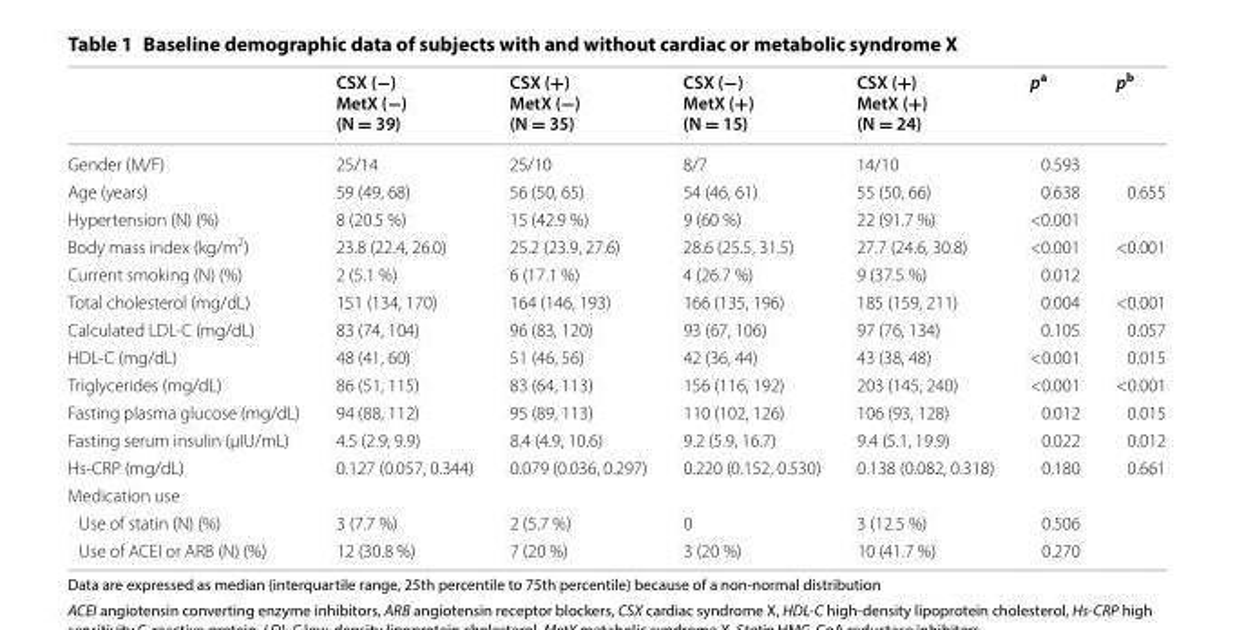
<table><thead><tr><td></td><td>CSX (−) MetX (−) (N = 39)</td><td>CSX (+) MetX (−) (N = 35)</td><td>CSX (−) MetX (+) (N = 15)</td><td>CSX (+) MetX (+) (N = 24)</td><td>p<sup>a</sup></td><td>p<sup>b</sup></td></tr></thead><tbody><tr><td>Gender (M/F)</td><td>25/14</td><td>25/10</td><td>8/7</td><td>14/10</td><td>0.593</td><td></td></tr><tr><td>Age (years)</td><td>59 (49, 68)</td><td>56 (50, 65)</td><td>54 (46, 61)</td><td>55 (50, 66)</td><td>0.638</td><td>0.655</td></tr><tr><td>Hypertension (N) (%)</td><td>8 (20.5 %)</td><td>15 (42.9 %)</td><td>9 (60 %)</td><td>22 (91.7 %)</td><td>&lt;0.001</td><td></td></tr><tr><td>Body mass index (kg/m<sup>2</sup>)</td><td>23.8 (22.4, 26.0)</td><td>25.2 (23.9, 27.6)</td><td>28.6 (25.5, 31.5)</td><td>27.7 (24.6, 30.8)</td><td>&lt;0.001</td><td>&lt;0.001</td></tr><tr><td>Current smoking (N) (%)</td><td>2 (5.1 %)</td><td>6 (17.1 %)</td><td>4 (26.7 %)</td><td>9 (37.5 %)</td><td>0.012</td><td></td></tr><tr><td>Total cholesterol (mg/dL)</td><td>151 (134, 170)</td><td>164 (146, 193)</td><td>166 (135, 196)</td><td>185 (159, 211)</td><td>0.004</td><td>&lt;0.001</td></tr><tr><td>Calculated LDL‑C (mg/dL)</td><td>83 (74, 104)</td><td>96 (83, 120)</td><td>93 (67, 106)</td><td>97 (76, 134)</td><td>0.105</td><td>0.057</td></tr><tr><td>HDL‑C (mg/dL)</td><td>48 (41, 60)</td><td>51 (46, 56)</td><td>42 (36, 44)</td><td>43 (38, 48)</td><td>&lt;0.001</td><td>0.015</td></tr><tr><td>Triglycerides (mg/dL)</td><td>86 (51, 115)</td><td>83 (64, 113)</td><td>156 (116, 192)</td><td>203 (145, 240)</td><td>&lt;0.001</td><td>&lt;0.001</td></tr><tr><td>Fasting plasma glucose (mg/dL)</td><td>94 (88, 112)</td><td>95 (89, 113)</td><td>110 (102, 126)</td><td>106 (93, 128)</td><td>0.012</td><td>0.015</td></tr><tr><td>Fasting serum insulin (µIU/mL)</td><td>4.5 (2.9, 9.9)</td><td>8.4 (4.9, 10.6)</td><td>9.2 (5.9, 16.7)</td><td>9.4 (5.1, 19.9)</td><td>0.022</td><td>0.012</td></tr><tr><td>Hs‑CRP (mg/dL)</td><td>0.127 (0.057, 0.344)</td><td>0.079 (0.036, 0.297)</td><td>0.220 (0.152, 0.530)</td><td>0.138 (0.082, 0.318)</td><td>0.180</td><td>0.661</td></tr><tr><td colspan="7">Medication use</td></tr><tr><td>Use of statin (N) (%)</td><td>3 (7.7 %)</td><td>2 (5.7 %)</td><td>0</td><td>3 (12.5 %)</td><td>0.506</td><td></td></tr><tr><td>Use of ACEI or ARB (N) (%)</td><td>12 (30.8 %)</td><td>7 (20 %)</td><td>3 (20 %)</td><td>10 (41.7 %)</td><td>0.270</td><td></td></tr></tbody></table>